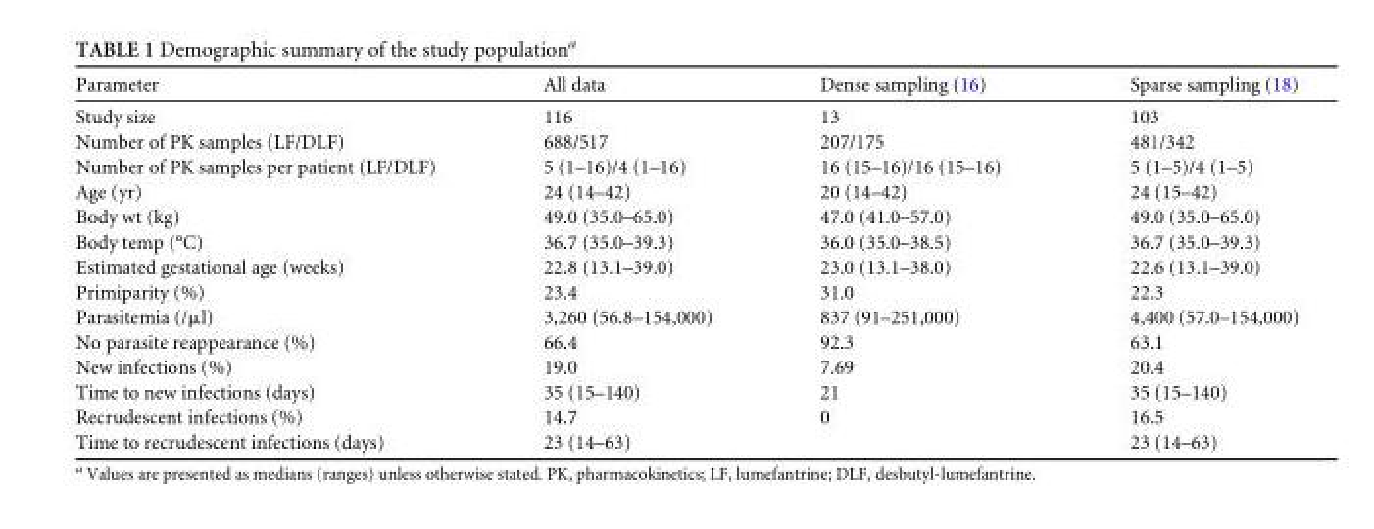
<table><thead><tr><td>Parameter</td><td>All data</td><td>Dense sampling (16)</td><td>Sparse sampling (18)</td></tr></thead><tbody><tr><td>Study size</td><td>116</td><td>13</td><td>103</td></tr><tr><td>Number of PK samples (LF/DLF)</td><td>688/517</td><td>207/175</td><td>481/342</td></tr><tr><td>Number of PK samples per patient (LF/DLF)</td><td>5 (1–16)/4 (1–16)</td><td>16 (15–16)/16 (15–16)</td><td>5 (1–5)/4 (1–5)</td></tr><tr><td>Age (yr)</td><td>24 (14–42)</td><td>20 (14–42)</td><td>24 (15–42)</td></tr><tr><td>Body wt (kg)</td><td>49.0 (35.0–65.0)</td><td>47.0 (41.0–57.0)</td><td>49.0 (35.0–65.0)</td></tr><tr><td>Body temp (°C)</td><td>36.7 (35.0–39.3)</td><td>36.0 (35.0–38.5)</td><td>36.7 (35.0–39.3)</td></tr><tr><td>Estimated gestational age (weeks)</td><td>22.8 (13.1–39.0)</td><td>23.0 (13.1–38.0)</td><td>22.6 (13.1–39.0)</td></tr><tr><td>Primiparity (%)</td><td>23.4</td><td>31.0</td><td>22.3</td></tr><tr><td>Parasitemia (/μl)</td><td>3,260 (56.8–154,000)</td><td>837 (91–251,000)</td><td>4,400 (57.0–154,000)</td></tr><tr><td>No parasite reappearance (%)</td><td>66.4</td><td>92.3</td><td>63.1</td></tr><tr><td>New infections (%)</td><td>19.0</td><td>7.69</td><td>20.4</td></tr><tr><td>Time to new infections (days)</td><td>35 (15–140)</td><td>21</td><td>35 (15–140)</td></tr><tr><td>Recrudescent infections (%)</td><td>14.7</td><td>0</td><td>16.5</td></tr><tr><td>Time to recrudescent infections (days)</td><td>23 (14–63)</td><td></td><td>23 (14–63)</td></tr></tbody></table>